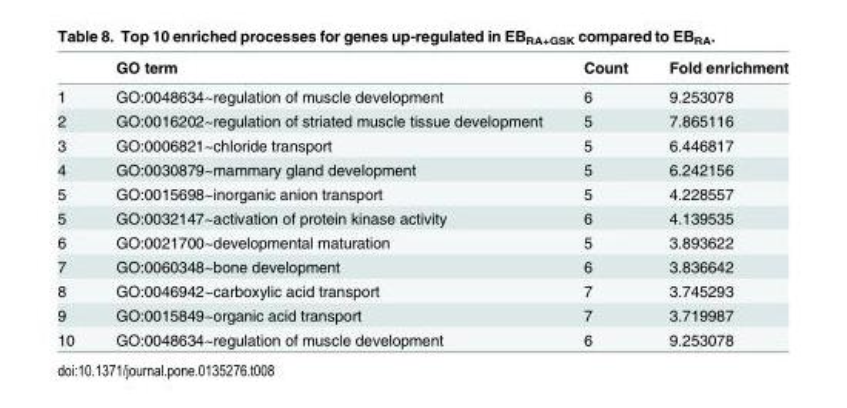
<table><thead><tr><td></td><td>GO term</td><td>Count</td><td>Fold enrichment</td></tr></thead><tbody><tr><td>1</td><td>GO:0048634~regulation of muscle development</td><td>6</td><td>9.253078</td></tr><tr><td>2</td><td>GO:0016202~regulation of striated muscle tissue development</td><td>5</td><td>7.865116</td></tr><tr><td>3</td><td>GO:0006821~chloride transport</td><td>5</td><td>6.446817</td></tr><tr><td>4</td><td>GO:0030879~mammary gland development</td><td>5</td><td>6.242156</td></tr><tr><td>5</td><td>GO:0015698~inorganic anion transport</td><td>5</td><td>4.228557</td></tr><tr><td>5</td><td>GO:0032147~activation of protein kinase activity</td><td>6</td><td>4.139535</td></tr><tr><td>6</td><td>GO:0021700~developmental maturation</td><td>5</td><td>3.893622</td></tr><tr><td>7</td><td>GO:0060348~bone development</td><td>6</td><td>3.836642</td></tr><tr><td>8</td><td>GO:0046942~carboxylic acid transport</td><td>7</td><td>3.745293</td></tr><tr><td>9</td><td>GO:0015849~organic acid transport</td><td>7</td><td>3.719987</td></tr><tr><td>10</td><td>GO:0048634~regulation of muscle development</td><td>6</td><td>9.253078</td></tr></tbody></table>